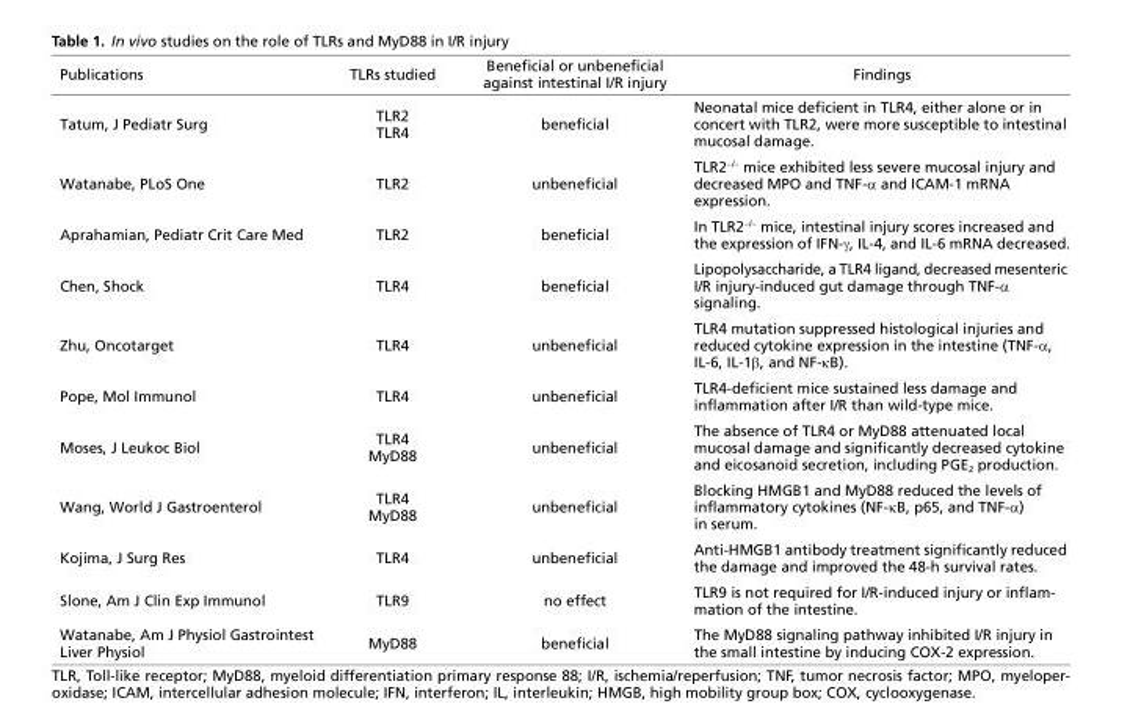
<table><thead><tr><td>Publications</td><td>TLRs studied</td><td>Beneficial or unbeneficial against intestinal I/R injury</td><td>Findings</td></tr></thead><tbody><tr><td>Tatum, J Pediatr Surg</td><td>TLR2 TLR4</td><td>beneficial</td><td>Neonatal mice deficient in TLR4, either alone or in concert with TLR2, were more susceptible to intestinal mucosal damage.</td></tr><tr><td>Watanabe, PLoS One</td><td>TLR2</td><td>unbeneficial</td><td>TLR2<sup>−/−</sup> mice exhibited less severe mucosal injury and decreased MPO and TNF-α and ICAM-1 mRNA expression.</td></tr><tr><td>Aprahamian, Pediatr Crit Care Med</td><td>TLR2</td><td>beneficial</td><td>In TLR2<sup>−/−</sup> mice, intestinal injury scores increased and the expression of IFN-γ, IL-4, and IL-6 mRNA decreased.</td></tr><tr><td>Chen, Shock</td><td>TLR4</td><td>beneficial</td><td>Lipopolysaccharide, a TLR4 ligand, decreased mesenteric I/R injury-induced gut damage through TNF-α signaling.</td></tr><tr><td>Zhu, Oncotarget</td><td>TLR4</td><td>unbeneficial</td><td>TLR4 mutation suppressed histological injuries and reduced cytokine expression in the intestine (TNF-α, IL-6, IL-1β, and NF-κB).</td></tr><tr><td>Pope, Mol Immunol</td><td>TLR4</td><td>unbeneficial</td><td>TLR4-deficient mice sustained less damage and inflammation after I/R than wild-type mice.</td></tr><tr><td>Moses, J Leukoc Biol</td><td>TLR4 MyD88</td><td>unbeneficial</td><td>The absence of TLR4 or MyD88 attenuated local mucosal damage and significantly decreased cytokine and eicosanoid secretion, including PGE<sub>2</sub> production.</td></tr><tr><td>Wang, World J Gastroenterol</td><td>TLR4 MyD88</td><td>unbeneficial</td><td>Blocking HMGB1 and MyD88 reduced the levels of inflammatory cytokines (NF-κB, p65, and TNF-α) in serum.</td></tr><tr><td>Kojima, J Surg Res</td><td>TLR4</td><td>unbeneficial</td><td>Anti-HMGB1 antibody treatment significantly reduced the damage and improved the 48-h survival rates.</td></tr><tr><td>Slone, Am J Clin Exp Immunol</td><td>TLR9</td><td>no effect</td><td>TLR9 is not required for I/R�induced injury or inflam� mation of the intestine.</td></tr><tr><td>Watanabe, Am J Physiol Gastrointest Liver Physiol</td><td>MyD88</td><td>beneficial</td><td>The MyD88 signaling pathway inhibited I/R injury in the small intestine by inducing COX-2 expression.</td></tr></tbody></table>